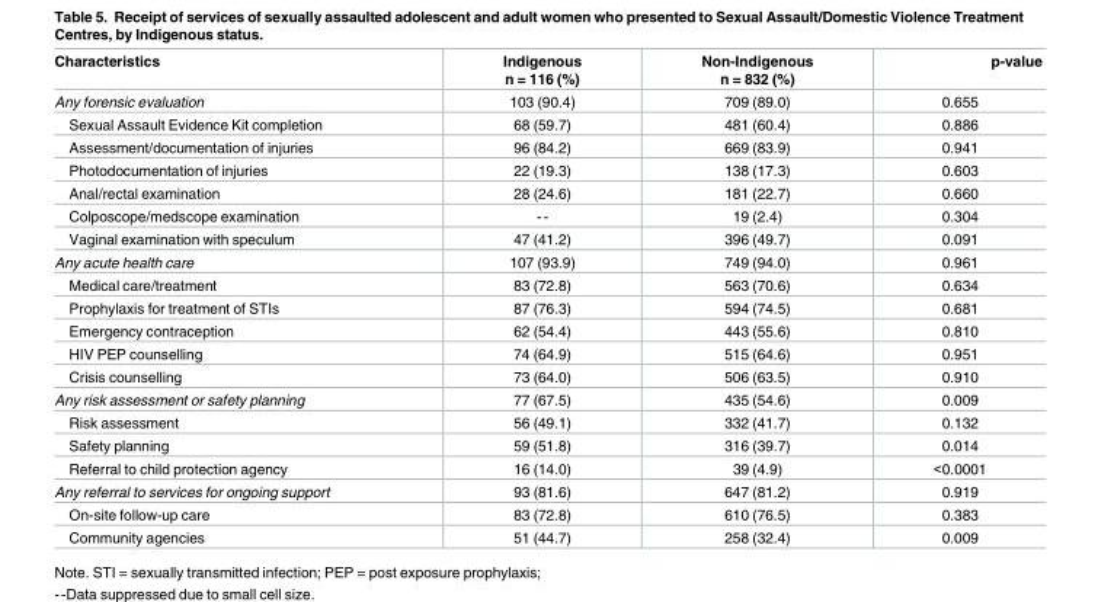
<table><thead><tr><td>Characteristics</td><td>Indigenous n = 116 (%)</td><td>Non-Indigenous n = 832 (%)</td><td>p-value</td></tr></thead><tbody><tr><td>Any forensic evaluation</td><td>103 (90.4)</td><td>709 (89.0)</td><td>0.655</td></tr><tr><td>Sexual Assault Evidence Kit completion</td><td>68 (59.7)</td><td>481 (60.4)</td><td>0.886</td></tr><tr><td>Assessment/documentation of injuries</td><td>96 (84.2)</td><td>669 (83.9)</td><td>0.941</td></tr><tr><td>Photodocumentation of injuries</td><td>22 (19.3)</td><td>138 (17.3)</td><td>0.603</td></tr><tr><td>Anal/rectal examination</td><td>28 (24.6)</td><td>181 (22.7)</td><td>0.660</td></tr><tr><td>Colposcope/medscope examination</td><td>--</td><td>19 (2.4)</td><td>0.304</td></tr><tr><td>Vaginal examination with speculum</td><td>47 (41.2)</td><td>396 (49.7)</td><td>0.091</td></tr><tr><td>Any acute health care</td><td>107 (93.9)</td><td>749 (94.0)</td><td>0.961</td></tr><tr><td>Medical care/treatment</td><td>83 (72.8)</td><td>563 (70.6)</td><td>0.634</td></tr><tr><td>Prophylaxis for treatment of STIs</td><td>87 (76.3)</td><td>594 (74.5)</td><td>0.681</td></tr><tr><td>Emergency contraception</td><td>62 (54.4)</td><td>443 (55.6)</td><td>0.810</td></tr><tr><td>HIV PEP counselling</td><td>74 (64.9)</td><td>515 (64.6)</td><td>0.951</td></tr><tr><td>Crisis counselling</td><td>73 (64.0)</td><td>506 (63.5)</td><td>0.910</td></tr><tr><td>Any risk assessment or safety planning</td><td>77 (67.5)</td><td>435 (54.6)</td><td>0.009</td></tr><tr><td>Risk assessment</td><td>56 (49.1)</td><td>332 (41.7)</td><td>0.132</td></tr><tr><td>Safety planning</td><td>59 (51.8)</td><td>316 (39.7)</td><td>0.014</td></tr><tr><td>Referral to child protection agency</td><td>16 (14.0)</td><td>39 (4.9)</td><td>&lt;0.0001</td></tr><tr><td>Any referral to services for ongoing support</td><td>93 (81.6)</td><td>647 (81.2)</td><td>0.919</td></tr><tr><td>On-site follow-up care</td><td>83 (72.8)</td><td>610 (76.5)</td><td>0.383</td></tr><tr><td>Community agencies</td><td>51 (44.7)</td><td>258 (32.4)</td><td>0.009</td></tr></tbody></table>